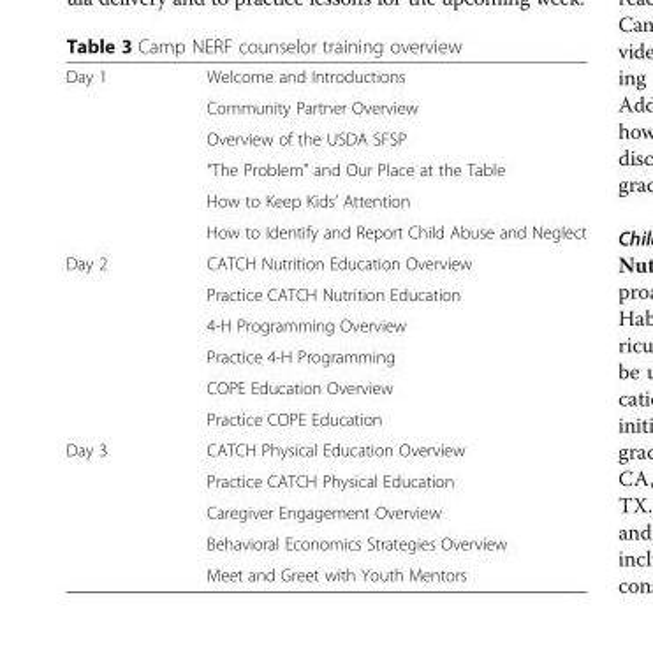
<table><tbody><tr><td rowspan="6">Day 1</td><td>Welcome and Introductions</td></tr><tr><td>Community Partner Overview</td></tr><tr><td>Overview of the USDA SFSP</td></tr><tr><td>“The Problem” and Our Place at the Table</td></tr><tr><td>How to Keep Kids’ Attention</td></tr><tr><td>How to Identify and Report Child Abuse and Neglect</td></tr><tr><td rowspan="6">Day 2</td><td>CATCH Nutrition Education Overview</td></tr><tr><td>Practice CATCH Nutrition Education</td></tr><tr><td>4-H Programming Overview</td></tr><tr><td>Practice 4-H Programming</td></tr><tr><td>COPE Education Overview</td></tr><tr><td>Practice COPE Education</td></tr><tr><td rowspan="5">Day 3</td><td>CATCH Physical Education Overview</td></tr><tr><td>Practice CATCH Physical Education</td></tr><tr><td>Caregiver Engagement Overview</td></tr><tr><td>Behavioral Economics Strategies Overview</td></tr><tr><td>Meet and Greet with Youth Mentors</td></tr></tbody></table>